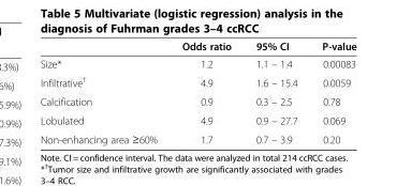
<table><thead><tr><td></td><td>Odds ratio</td><td>95% CI</td><td>P-value</td></tr></thead><tbody><tr><td>Size*</td><td>1.2</td><td>1.1 – 1.4</td><td>0.00083</td></tr><tr><td>Infiltrative<sup>†</sup></td><td>4.9</td><td>1.6 – 15.4</td><td>0.0059</td></tr><tr><td>Calcification</td><td>0.9</td><td>0.3 – 2.5</td><td>0.78</td></tr><tr><td>Lobulated</td><td>4.9</td><td>0.9 – 27.7</td><td>0.069</td></tr><tr><td>Non-enhancing area ≥60%</td><td>1.7</td><td>0.7 – 3.9</td><td>0.20</td></tr></tbody></table>